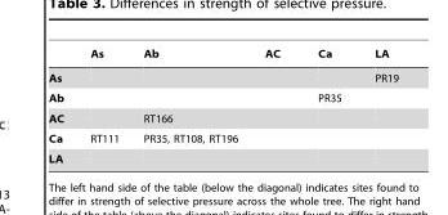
<table><thead><tr><td></td><td>As</td><td>Ab</td><td>AC</td><td>Ca</td><td>LA</td></tr></thead><tbody><tr><td>As</td><td></td><td></td><td></td><td></td><td>PR19</td></tr><tr><td>Ab</td><td></td><td></td><td></td><td>PR35</td><td></td></tr><tr><td>AC</td><td></td><td>RT166</td><td></td><td></td><td></td></tr><tr><td>Ca</td><td>RT111</td><td>PR35, RT108, RT196</td><td></td><td></td><td></td></tr><tr><td>LA</td><td></td><td></td><td></td><td></td><td></td></tr></tbody></table>